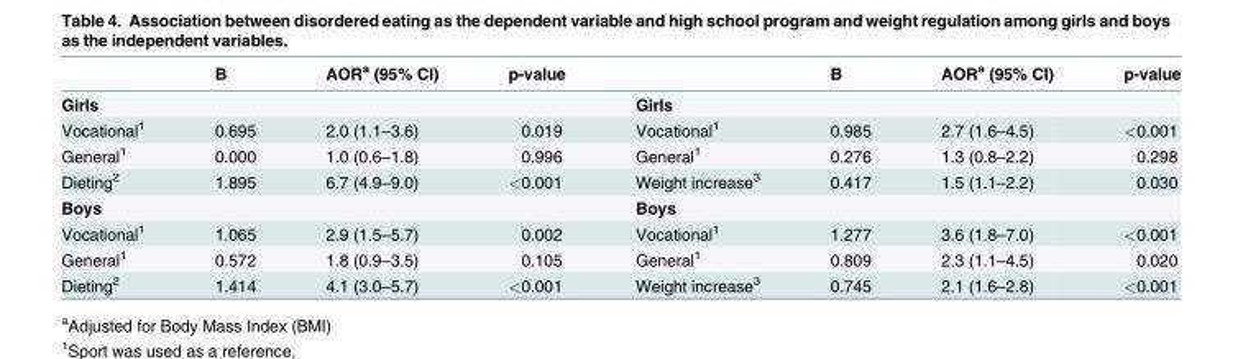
<table><thead><tr><td></td><td>B</td><td>AOR<sup>a</sup> (95% CI)</td><td>p-value</td><td></td><td>B</td><td>AOR<sup>a</sup> (95% CI)</td><td>p-value</td></tr></thead><tbody><tr><td>Girls</td><td></td><td></td><td></td><td>Girls</td><td></td><td></td><td></td></tr><tr><td>Vocational<sup>1</sup></td><td>0.695</td><td>2.0 (1.1–3.6)</td><td>0.019</td><td>Vocational<sup>1</sup></td><td>0.985</td><td>2.7 (1.6–4.5)</td><td>&lt;0.001</td></tr><tr><td>General<sup>1</sup></td><td>0.000</td><td>1.0 (0.6–1.8)</td><td>0.996</td><td>General<sup>1</sup></td><td>0.276</td><td>1.3 (0.8–2.2)</td><td>0.298</td></tr><tr><td>Dieting<sup>2</sup></td><td>1.895</td><td>6.7 (4.9–9.0)</td><td>&lt;0.001</td><td>Weight increase<sup>3</sup></td><td>0.417</td><td>1.5 (1.1–2.2)</td><td>0.030</td></tr><tr><td>Boys</td><td></td><td></td><td></td><td>Boys</td><td></td><td></td><td></td></tr><tr><td>Vocational<sup>1</sup></td><td>1.065</td><td>2.9 (1.5–5.7)</td><td>0.002</td><td>Vocational<sup>1</sup></td><td>1.277</td><td>3.6 (1.8–7.0)</td><td>&lt;0.001</td></tr><tr><td>General<sup>1</sup></td><td>0.572</td><td>1.8 (0.9–3.5)</td><td>0.105</td><td>General<sup>1</sup></td><td>0.809</td><td>2.3 (1.1–4.5)</td><td>0.020</td></tr><tr><td>Dieting<sup>2</sup></td><td>1.414</td><td>4.1 (3.0–5.7)</td><td>&lt;0.001</td><td>Weight increase<sup>3</sup></td><td>0.745</td><td>2.1 (1.6–2.8)</td><td>&lt;0.001</td></tr></tbody></table>